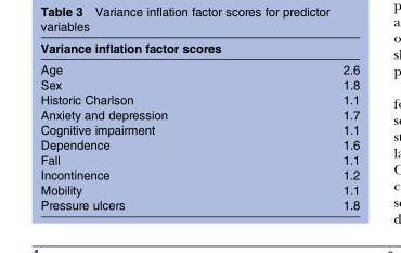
<table><thead><tr><td colspan="2">Variance inflation factor scores</td></tr><tr><td>Age</td><td>2.6</td></tr></thead><tbody><tr><td>Sex</td><td>1.8</td></tr><tr><td>Historic Charlson</td><td>1.1</td></tr><tr><td>Anxiety and depression</td><td>1.7</td></tr><tr><td>Cognitive impairment</td><td>1.1</td></tr><tr><td>Dependence</td><td>1.6</td></tr><tr><td>Fall</td><td>1.1</td></tr><tr><td>Incontinence</td><td>1.2</td></tr><tr><td>Mobility</td><td>1.1</td></tr><tr><td>Pressure ulcers</td><td>1.8</td></tr></tbody></table>